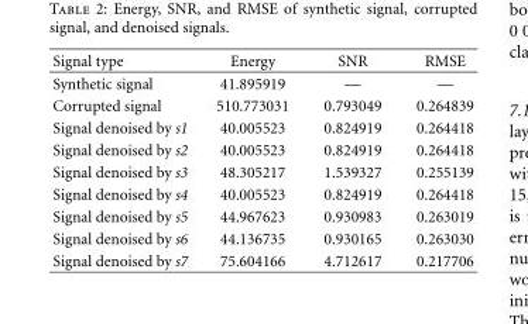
<table><thead><tr><td>Signal type</td><td>Energy</td><td>SNR</td><td>RMSE</td></tr></thead><tbody><tr><td>Synthetic signal</td><td>41.895919</td><td>—</td><td>—</td></tr><tr><td>Corrupted signal</td><td>510.773031</td><td>0.793049</td><td>0.264839</td></tr><tr><td>Signal denoised by s1</td><td>40.005523</td><td>0.824919</td><td>0.264418</td></tr><tr><td>Signal denoised by s2</td><td>40.005523</td><td>0.824919</td><td>0.264418</td></tr><tr><td>Signal denoised by s3</td><td>48.305217</td><td>1.539327</td><td>0.255139</td></tr><tr><td>Signal denoised by s4</td><td>40.005523</td><td>0.824919</td><td>0.264418</td></tr><tr><td>Signal denoised by s5</td><td>44.967623</td><td>0.930983</td><td>0.263019</td></tr><tr><td>Signal denoised by s6</td><td>44.136735</td><td>0.930165</td><td>0.263030</td></tr><tr><td>Signal denoised by s7</td><td>75.604166</td><td>4.712617</td><td>0.217706</td></tr></tbody></table>